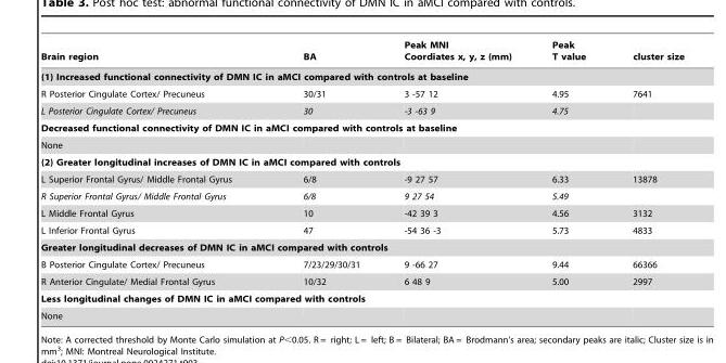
<table><thead><tr><td>Brain region</td><td>BA</td><td>Peak MNI Coordiates x, y, z (mm)</td><td>Peak T value</td><td>cluster size</td></tr></thead><tbody><tr><td colspan="5">(1) Increased functional connectivity of DMN IC in aMCI compared with controls at baseline</td></tr><tr><td>R Posterior Cingulate Cortex/ Precuneus</td><td>30/31</td><td>3 -57 12</td><td>4.95</td><td>7641</td></tr><tr><td>L Posterior Cingulate Cortex/ Precuneus</td><td>30</td><td>-3 -63 9</td><td>4.75</td><td></td></tr><tr><td colspan="5">Decreased functional connectivity of DMN IC in aMCI compared with controls at baseline</td></tr><tr><td colspan="5">None</td></tr><tr><td colspan="5">(2) Greater longitudinal increases of DMN IC in aMCI compared with controls</td></tr><tr><td>L Superior Frontal Gyrus/ Middle Frontal Gyrus</td><td>6/8</td><td>-9 27 57</td><td>6.33</td><td>13878</td></tr><tr><td>R Superior Frontal Gyrus/ Middle Frontal Gyrus</td><td>6/8</td><td>9 27 54</td><td>5.49</td><td></td></tr><tr><td>L Middle Frontal Gyrus</td><td>10</td><td>-42 39 3</td><td>4.56</td><td>3132</td></tr><tr><td>L Inferior Frontal Gyrus</td><td>47</td><td>-54 36 -3</td><td>5.73</td><td>4833</td></tr><tr><td colspan="5">Greater longitudinal decreases of DMN IC in aMCI compared with controls</td></tr><tr><td>B Posterior Cingulate Cortex/ Precuneus</td><td>7/23/29/30/31</td><td>9 -66 27</td><td>9.44</td><td>66366</td></tr><tr><td>R Anterior Cingulate/ Medial Frontal Gyrus</td><td>10/32</td><td>6 48 9</td><td>5.00</td><td>2997</td></tr><tr><td colspan="5">Less longitudinal changes of DMN IC in aMCI compared with controls</td></tr><tr><td>None</td><td></td><td></td><td></td><td></td></tr></tbody></table>